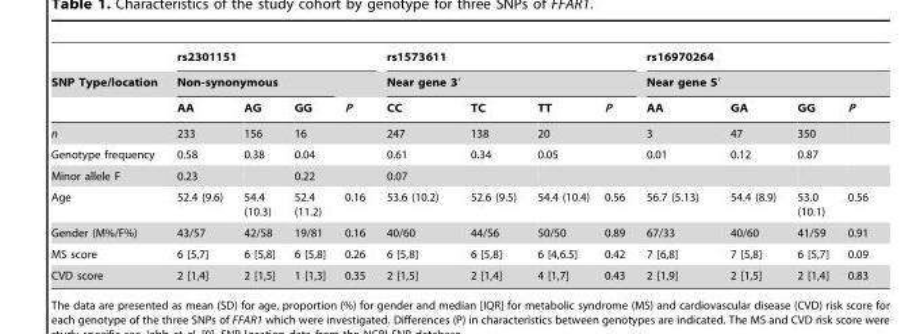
<table><thead><tr><td rowspan="3">SNP Type/location</td><td colspan="4">rs2301151</td><td rowspan="2" colspan="4">rs1573611 Near gene 3′</td><td rowspan="2" colspan="4">rs16970264 Near gene 5′</td></tr><tr><td colspan="3">Non-synonymous</td><td rowspan="2">P</td></tr><tr><td>AA</td><td>AG</td><td>GG</td><td>CC</td><td>TC</td><td>TT</td><td>P</td><td>AA</td><td>GA</td><td>GG</td><td>P</td></tr></thead><tbody><tr><td>n</td><td>233</td><td>156</td><td>16</td><td></td><td>247</td><td>138</td><td>20</td><td></td><td>3</td><td>47</td><td>350</td><td></td></tr><tr><td>Genotype frequency</td><td>0.58</td><td>0.38</td><td>0.04</td><td></td><td>0.61</td><td>0.34</td><td>0.05</td><td></td><td>0.01</td><td>0.12</td><td>0.87</td><td></td></tr><tr><td>Minor allele F</td><td>0.23</td><td></td><td>0.22</td><td></td><td>0.07</td><td></td><td></td><td></td><td></td><td></td><td></td><td></td></tr><tr><td>Age</td><td>52.4 (9.6)</td><td>54.4 (10.3)</td><td>52.4 (11.2)</td><td>0.16</td><td>53.6 (10.2)</td><td>52.6 (9.5)</td><td>54.4 (10.4)</td><td>0.56</td><td>56.7 (5.13)</td><td>54.4 (8.9)</td><td>53.0 (10.1)</td><td>0.56</td></tr><tr><td>Gender (M%/F%)</td><td>43/57</td><td>42/58</td><td>19/81</td><td>0.16</td><td>40/60</td><td>44/56</td><td>50/50</td><td>0.89</td><td>67/33</td><td>40/60</td><td>41/59</td><td>0.91</td></tr><tr><td>MS score</td><td>6 [5,7]</td><td>6 [5,8]</td><td>6 [5,8]</td><td>0.26</td><td>6 [5,8]</td><td>6 [5,8]</td><td>6 [4,6.5]</td><td>0.42</td><td>7 [6,8]</td><td>7 [5,8]</td><td>6 [5,7]</td><td>0.09</td></tr><tr><td>CVD score</td><td>2 [1,4]</td><td>2 [1,5]</td><td>1 [1,3]</td><td>0.35</td><td>2 [1,5]</td><td>2 [1,4]</td><td>4 [1,7]</td><td>0.43</td><td>2 [1,9]</td><td>2 [1,5]</td><td>2 [1,4]</td><td>0.83</td></tr></tbody></table>